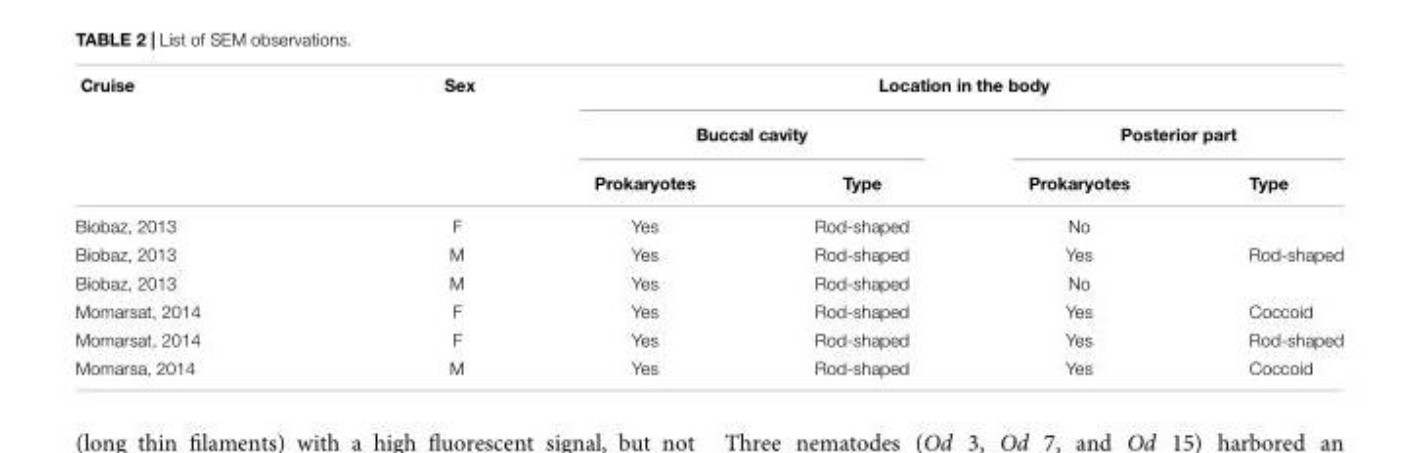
<table><thead><tr><td rowspan="3">Cruise</td><td rowspan="3">Sex</td><td colspan="4">Location in the body</td></tr><tr><td colspan="2">Buccal cavity</td><td colspan="2">Posterior part</td></tr><tr><td>Prokaryotes</td><td>Type</td><td>Prokaryotes</td><td>Type</td></tr></thead><tbody><tr><td>Biobaz, 2013</td><td>F</td><td>Yes</td><td>Rod-shaped</td><td>No</td><td></td></tr><tr><td>Biobaz, 2013</td><td>M</td><td>Yes</td><td>Rod-shaped</td><td>Yes</td><td>Rod-shaped</td></tr><tr><td>Biobaz, 2013</td><td>M</td><td>Yes</td><td>Rod-shaped</td><td>No</td><td></td></tr><tr><td>Momarsat, 2014</td><td>F</td><td>Yes</td><td>Rod-shaped</td><td>Yes</td><td>Coccoid</td></tr><tr><td>Momarsat, 2014</td><td>F</td><td>Yes</td><td>Rod-shaped</td><td>Yes</td><td>Rod-shaped</td></tr><tr><td>Momarsa, 2014</td><td>M</td><td>Yes</td><td>Rod-shaped</td><td>Yes</td><td>Coccoid</td></tr></tbody></table>